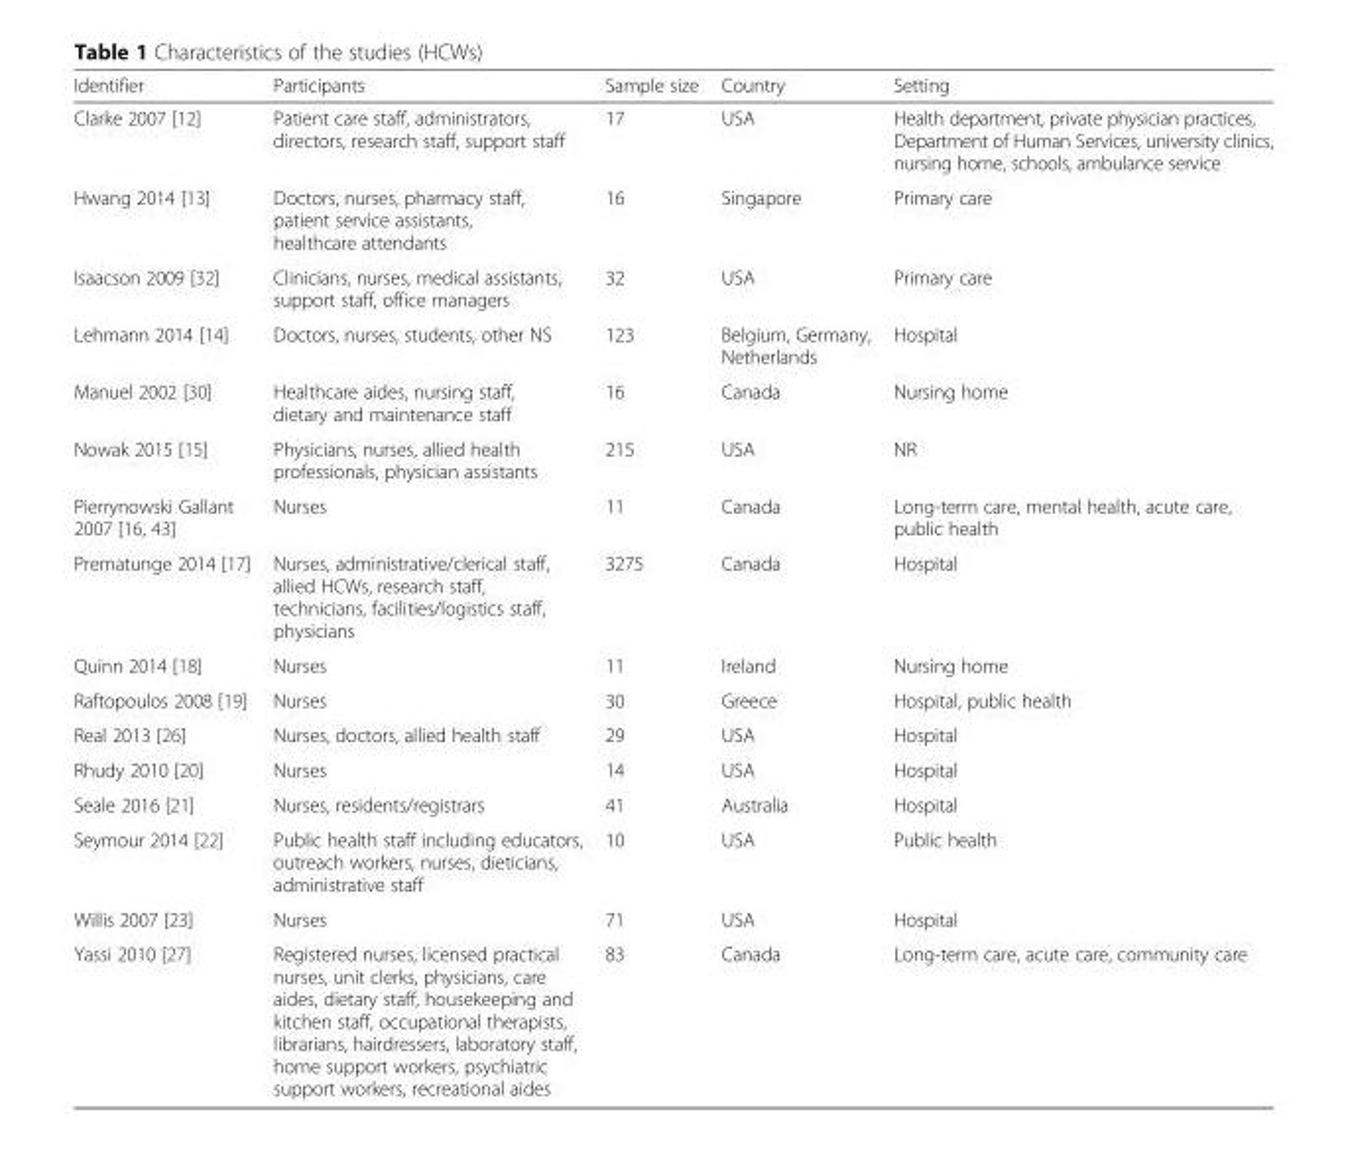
<table><thead><tr><td>Identifier</td><td>Participants</td><td>Sample size</td><td>Country</td><td>Setting</td></tr></thead><tbody><tr><td>Clarke 2007 [12]</td><td>Patient care staff, administrators, directors, research staff, support staff</td><td>17</td><td>USA</td><td>Health department, private physician practices, Department of Human Services, university clinics, nursing home, schools, ambulance service</td></tr><tr><td>Hwang 2014 [13]</td><td>Doctors, nurses, pharmacy staff, patient service assistants, healthcare attendants</td><td>16</td><td>Singapore</td><td>Primary care</td></tr><tr><td>Isaacson 2009 [32]</td><td>Clinicians, nurses, medical assistants, support staff, office managers</td><td>32</td><td>USA</td><td>Primary care</td></tr><tr><td>Lehmann 2014 [14]</td><td>Doctors, nurses, students, other NS</td><td>123</td><td>Belgium, Germany, Netherlands</td><td>Hospital</td></tr><tr><td>Manuel 2002 [30]</td><td>Healthcare aides, nursing staff, dietary and maintenance staff</td><td>16</td><td>Canada</td><td>Nursing home</td></tr><tr><td>Nowak 2015 [15]</td><td>Physicians, nurses, allied health professionals, physician assistants</td><td>215</td><td>USA</td><td>NR</td></tr><tr><td>Pierrynowski Gallant 2007 [16, 43]</td><td>Nurses</td><td>11</td><td>Canada</td><td>Long-term care, mental health, acute care, public health</td></tr><tr><td>Prematunge 2014 [17]</td><td>Nurses, administrative/clerical staff, allied HCWs, research staff, technicians, facilities/logistics staff, physicians</td><td>3275</td><td>Canada</td><td>Hospital</td></tr><tr><td>Quinn 2014 [18]</td><td>Nurses</td><td>11</td><td>Ireland</td><td>Nursing home</td></tr><tr><td>Raftopoulos 2008 [19]</td><td>Nurses</td><td>30</td><td>Greece</td><td>Hospital, public health</td></tr><tr><td>Real 2013 [26]</td><td>Nurses, doctors, allied health staff</td><td>29</td><td>USA</td><td>Hospital</td></tr><tr><td>Rhudy 2010 [20]</td><td>Nurses</td><td>14</td><td>USA</td><td>Hospital</td></tr><tr><td>Seale 2016 [21]</td><td>Nurses, residents/registrars</td><td>41</td><td>Australia</td><td>Hospital</td></tr><tr><td>Seymour 2014 [22]</td><td>Public health staff including educators, outreach workers, nurses, dieticians, administrative staff</td><td>10</td><td>USA</td><td>Public health</td></tr><tr><td>Willis 2007 [23]</td><td>Nurses</td><td>71</td><td>USA</td><td>Hospital</td></tr><tr><td>Yassi 2010 [27]</td><td>Registered nurses, licensed practical nurses, unit clerks, physicians, care aides, dietary staff, housekeeping and kitchen staff, occupational therapists, librarians, hairdressers, laboratory staff, home support workers, psychiatric support workers, recreational aides</td><td>83</td><td>Canada</td><td>Long-term care, acute care, community care</td></tr></tbody></table>